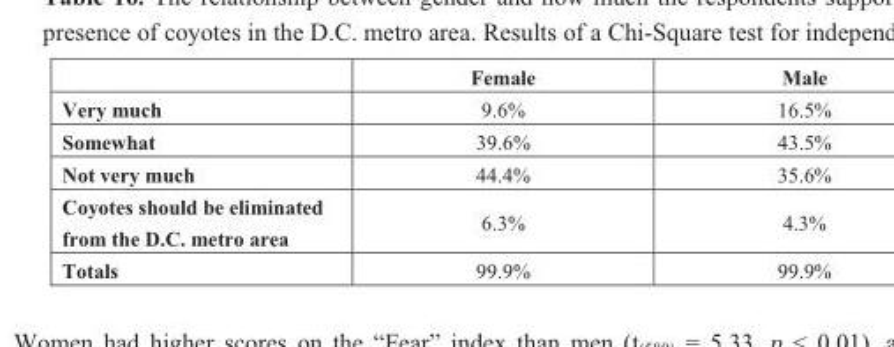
<table><thead><tr><td></td><td>Female</td><td>Male</td></tr></thead><tbody><tr><td>Very much</td><td>9.6%</td><td>16.5%</td></tr><tr><td>Somewhat</td><td>39.6%</td><td>43.5%</td></tr><tr><td>Not very much</td><td>44.4%</td><td>35.6%</td></tr><tr><td>Coyotes should be eliminated from the D.C. metro area</td><td>6.3%</td><td>4.3%</td></tr><tr><td>Totals</td><td>99.9%</td><td>99.9%</td></tr></tbody></table>